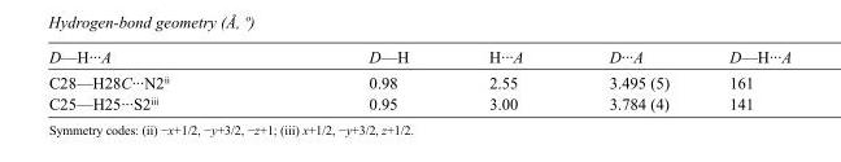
<table><tbody><tr><td>D—H···A</td><td>D—H</td><td>H···A</td><td>D···A</td><td>D—H···A</td></tr><tr><td>C28—H28C···N2<sup>ii</sup></td><td>0.98</td><td>2.55</td><td>3.495 (5)</td><td>161</td></tr><tr><td>C25—H25···S2<sup>iii</sup></td><td>0.95</td><td>3.00</td><td>3.784 (4)</td><td>141</td></tr></tbody></table>